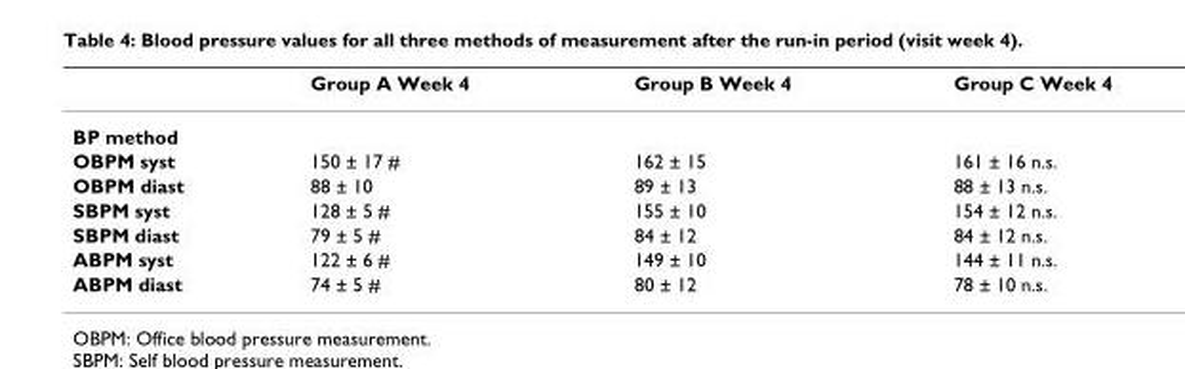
<table><thead><tr><td></td><td>Group A Week 4</td><td>Group B Week 4</td><td>Group C Week 4</td></tr></thead><tbody><tr><td colspan="4">BP method</td></tr><tr><td>OBPM syst</td><td>150 ± 17 #</td><td>162 ± 15</td><td>161 ± 16 n.s.</td></tr><tr><td>OBPM diast</td><td>88 ± 10</td><td>89 ± 13</td><td>88 ± 13 n.s.</td></tr><tr><td>SBPM syst</td><td>128 ± 5 #</td><td>155 ± 10</td><td>154 ± 12 n.s.</td></tr><tr><td>SBPM diast</td><td>79 ± 5 #</td><td>84 ± 12</td><td>84 ± 12 n.s.</td></tr><tr><td>ABPM syst</td><td>122 ± 6 #</td><td>149 ± 10</td><td>144 ± 11 n.s.</td></tr><tr><td>ABPM diast</td><td>74 ± 5 #</td><td>80 ± 12</td><td>78 ± 10 n.s.</td></tr></tbody></table>